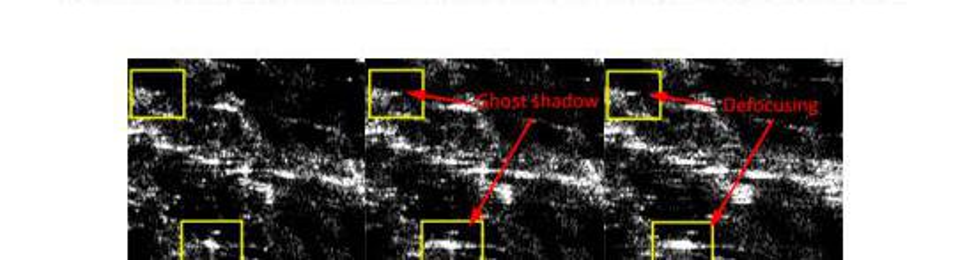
<table><thead><tr><td rowspan="2">Approach</td><td colspan="3">Point A</td><td colspan="3">Point B</td></tr><tr><td>PSLR (dB)</td><td>ISLR (dB)</td><td>IRW (m)</td><td>PSLR (dB)</td><td>ISLR (dB)</td><td>IRW (m)</td></tr></thead><tbody><tr><td>FDFBPA</td><td>−10.9869</td><td>−8.5942</td><td>0.1968</td><td>−9.3550</td><td>−6.1651</td><td>0.2531</td></tr><tr><td>PTA</td><td>−8.5014</td><td>−5.6829</td><td>0.1968</td><td>−5.1406</td><td>−2.9050</td><td>0.2531</td></tr><tr><td>Two−step</td><td>−4.8080</td><td>−4.3006</td><td>0.3937</td><td>−4.1109</td><td>−2.8496</td><td>0.2812</td></tr></tbody></table>